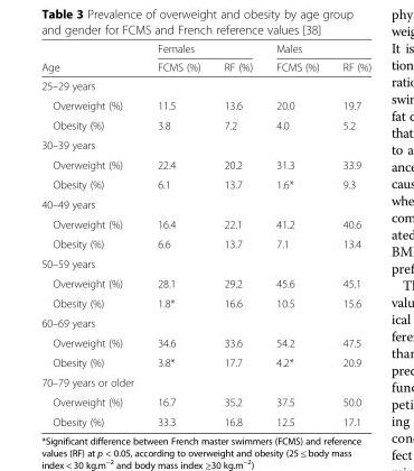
<table><thead><tr><td rowspan="2">Age</td><td colspan="2">Females</td><td colspan="2">Males</td></tr><tr><td>FCMS (%)</td><td>RF (%)</td><td>FCMS (%)</td><td>RF (%)</td></tr></thead><tbody><tr><td colspan="5">25–29 years</td></tr><tr><td>Overweight (%)</td><td>11.5</td><td>13.6</td><td>20.0</td><td>19.7</td></tr><tr><td>Obesity (%)</td><td>3.8</td><td>7.2</td><td>4.0</td><td>5.2</td></tr><tr><td colspan="5">30–39 years</td></tr><tr><td>Overweight (%)</td><td>22.4</td><td>20.2</td><td>31.3</td><td>33.9</td></tr><tr><td>Obesity (%)</td><td>6.1</td><td>13.7</td><td>1.6*</td><td>9.3</td></tr><tr><td colspan="5">40–49 years</td></tr><tr><td>Overweight (%)</td><td>16.4</td><td>22.1</td><td>41.2</td><td>40.6</td></tr><tr><td>Obesity (%)</td><td>6.6</td><td>13.7</td><td>7.1</td><td>13.4</td></tr><tr><td colspan="5">50–59 years</td></tr><tr><td>Overweight (%)</td><td>28.1</td><td>29.2</td><td>45.6</td><td>45.1</td></tr><tr><td>Obesity (%)</td><td>1.8*</td><td>16.6</td><td>10.5</td><td>15.6</td></tr><tr><td colspan="5">60–69 years</td></tr><tr><td>Overweight (%)</td><td>34.6</td><td>33.6</td><td>54.2</td><td>47.5</td></tr><tr><td>Obesity (%)</td><td>3.8*</td><td>17.7</td><td>4.2*</td><td>20.9</td></tr><tr><td colspan="5">70–79 years or older</td></tr><tr><td>Overweight (%)</td><td>16.7</td><td>35.2</td><td>37.5</td><td>50.0</td></tr><tr><td>Obesity (%)</td><td>33.3</td><td>16.8</td><td>12.5</td><td>17.1</td></tr></tbody></table>